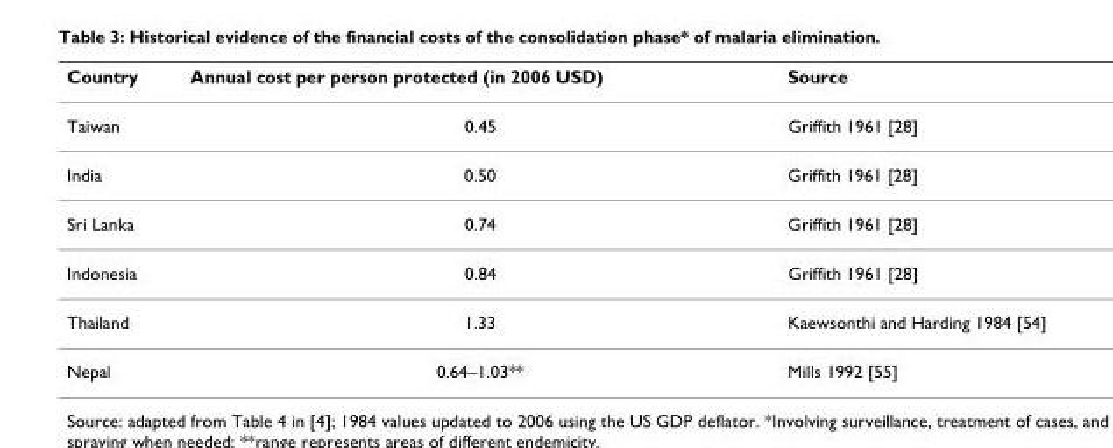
<table><thead><tr><td>Country</td><td>Annual cost per person protected (in 2006 USD)</td><td>Source</td></tr></thead><tbody><tr><td>Taiwan</td><td>0.45</td><td>Griffith 1961 [28]</td></tr><tr><td>India</td><td>0.50</td><td>Griffith 1961 [28]</td></tr><tr><td>Sri Lanka</td><td>0.74</td><td>Griffith 1961 [28]</td></tr><tr><td>Indonesia</td><td>0.84</td><td>Griffith 1961 [28]</td></tr><tr><td>Thailand</td><td>1.33</td><td>Kaewsonthi and Harding 1984 [54]</td></tr><tr><td>Nepal</td><td>0.64–1.03**</td><td>Mills 1992 [55]</td></tr></tbody></table>